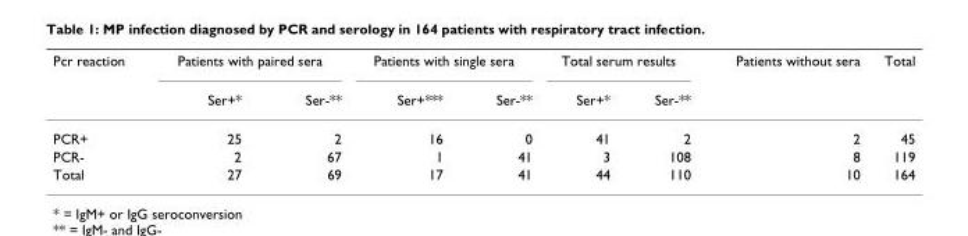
<table><thead><tr><td rowspan="2">Pcr reaction</td><td colspan="2">Patients with paired sera</td><td colspan="2">Patients with single sera</td><td colspan="2">Total serum results</td><td rowspan="2">Patients without sera</td><td rowspan="2">Total</td></tr><tr><td>Ser+*</td><td>Ser-**</td><td>Ser+***</td><td>Ser-**</td><td>Ser+*</td><td>Ser-**</td></tr></thead><tbody><tr><td>PCR+</td><td>25</td><td>2</td><td>16</td><td>0</td><td>41</td><td>2</td><td>2</td><td>45</td></tr><tr><td>PCR-</td><td>2</td><td>67</td><td>1</td><td>41</td><td>3</td><td>108</td><td>8</td><td>119</td></tr><tr><td>Total</td><td>27</td><td>69</td><td>17</td><td>41</td><td>44</td><td>110</td><td>10</td><td>164</td></tr></tbody></table>